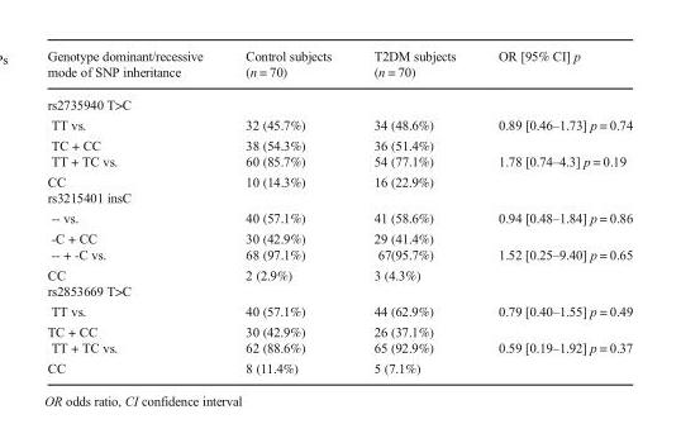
<table><thead><tr><td>Genotype dominant/recessive mode of SNP inheritance</td><td>Control subjects (n = 70)</td><td>T2DM subjects (n = 70)</td><td>OR [95% CI] p</td></tr></thead><tbody><tr><td colspan="4">rs2735940 T&gt;C</td></tr><tr><td>TT vs. TC + CC</td><td>32 (45.7%) 38 (54.3%)</td><td>34 (48.6%) 36 (51.4%)</td><td>0.89 [0.46–1.73] p = 0.74</td></tr><tr><td>TT + TC vs. CC</td><td>60 (85.7%) 10 (14.3%)</td><td>54 (77.1%) 16 (22.9%)</td><td>1.78 [0.74–4.3] p = 0.19</td></tr><tr><td colspan="4">rs3215401 insC</td></tr><tr><td>-- vs. -C + CC</td><td>40 (57.1%) 30 (42.9%)</td><td>41 (58.6%) 29 (41.4%)</td><td>0.94 [0.48–1.84] p = 0.86</td></tr><tr><td>-- + -C vs. CC</td><td>68 (97.1%) 2 (2.9%)</td><td>67(95.7%) 3 (4.3%)</td><td>1.52 [0.25–9.40] p = 0.65</td></tr><tr><td colspan="4">rs2853669 T&gt;C</td></tr><tr><td>TT vs. TC + CC</td><td>40 (57.1%) 30 (42.9%)</td><td>44 (62.9%) 26 (37.1%)</td><td>0.79 [0.40–1.55] p = 0.49</td></tr><tr><td>TT + TC vs. CC</td><td>62 (88.6%) 8 (11.4%)</td><td>65 (92.9%) 5 (7.1%)</td><td>0.59 [0.19–1.92] p = 0.37</td></tr></tbody></table>